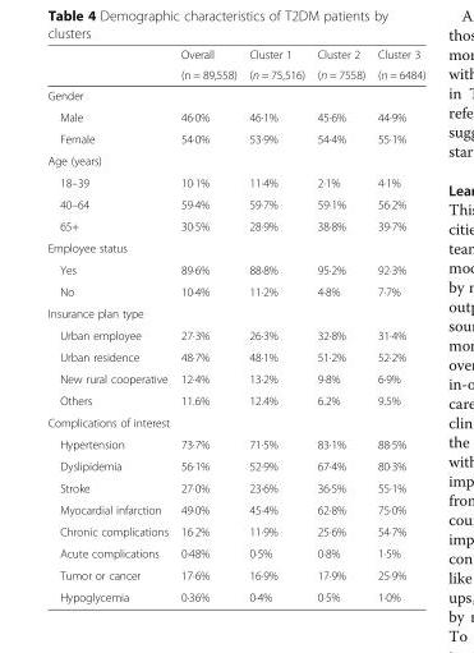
<table><thead><tr><td rowspan="2"></td><td rowspan="2">Overall (n = 89,558)</td><td rowspan="2">Cluster 1 (n = 75,516)</td><td rowspan="2">Cluster 2 (n = 7558)</td><td rowspan="2">Cluster 3 (n = 6484)</td></tr><tr></tr></thead><tbody><tr><td colspan="5">Gender</td></tr><tr><td>Male</td><td>46·0%</td><td>46·1%</td><td>45·6%</td><td>44·9%</td></tr><tr><td>Female</td><td>54·0%</td><td>53·9%</td><td>54·4%</td><td>55·1%</td></tr><tr><td colspan="5">Age (years)</td></tr><tr><td>18–39</td><td>10·1%</td><td>11·4%</td><td>2·1%</td><td>4·1%</td></tr><tr><td>40–64</td><td>59·4%</td><td>59·7%</td><td>59·1%</td><td>56·2%</td></tr><tr><td>65+</td><td>30·5%</td><td>28·9%</td><td>38·8%</td><td>39·7%</td></tr><tr><td colspan="5">Employee status</td></tr><tr><td>Yes</td><td>89·6%</td><td>88·8%</td><td>95·2%</td><td>92·3%</td></tr><tr><td>No</td><td>10·4%</td><td>11·2%</td><td>4·8%</td><td>7·7%</td></tr><tr><td colspan="5">Insurance plan type</td></tr><tr><td>Urban employee</td><td>27·3%</td><td>26·3%</td><td>32·8%</td><td>31·4%</td></tr><tr><td>Urban residence</td><td>48·7%</td><td>48·1%</td><td>51·2%</td><td>52·2%</td></tr><tr><td>New rural cooperative</td><td>12·4%</td><td>13·2%</td><td>9·8%</td><td>6·9%</td></tr><tr><td>Others</td><td>11.6%</td><td>12.4%</td><td>6.2%</td><td>9.5%</td></tr><tr><td colspan="5">Complications of interest</td></tr><tr><td>Hypertension</td><td>73·7%</td><td>71·5%</td><td>83·1%</td><td>88·5%</td></tr><tr><td>Dyslipidemia</td><td>56·1%</td><td>52·9%</td><td>67·4%</td><td>80·3%</td></tr><tr><td>Stroke</td><td>27·0%</td><td>23·6%</td><td>36·5%</td><td>55·1%</td></tr><tr><td>Myocardial infarction</td><td>49·0%</td><td>45·4%</td><td>62·8%</td><td>75·0%</td></tr><tr><td>Chronic complications</td><td>16·2%</td><td>11·9%</td><td>25·6%</td><td>54·7%</td></tr><tr><td>Acute complications</td><td>0·48%</td><td>0·5%</td><td>0·8%</td><td>1·5%</td></tr><tr><td>Tumor or cancer</td><td>17·6%</td><td>16·9%</td><td>17·9%</td><td>25·9%</td></tr><tr><td>Hypoglycemia</td><td>0·36%</td><td>0·4%</td><td>0·5%</td><td>1·0%</td></tr></tbody></table>